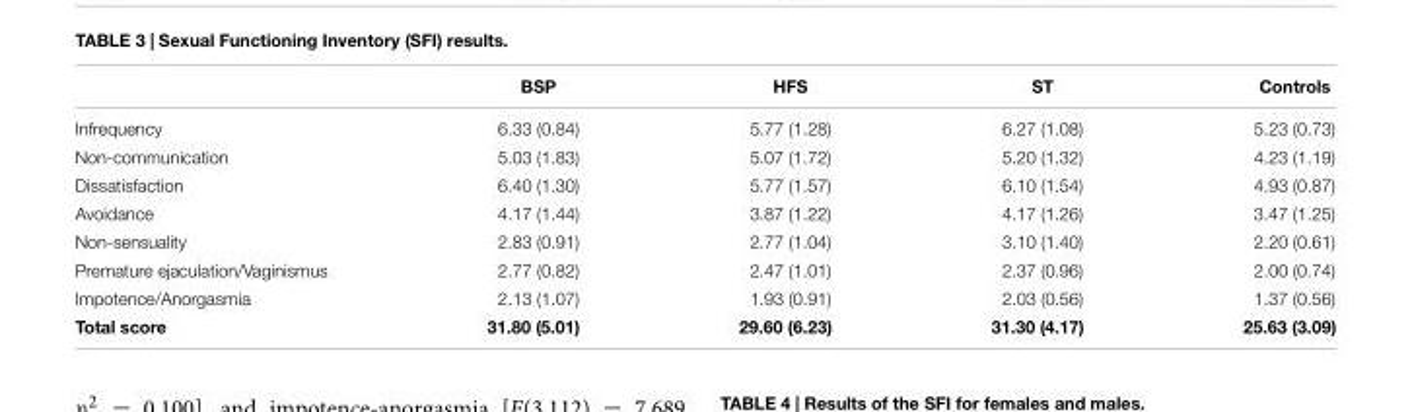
<table><thead><tr><td></td><td>BSP</td><td>HFS</td><td>ST</td><td>Controls</td></tr></thead><tbody><tr><td>Infrequency</td><td>6.33 (0.84)</td><td>5.77 (1.28)</td><td>6.27 (1.08)</td><td>5.23 (0.73)</td></tr><tr><td>Non-communication</td><td>5.03 (1.83)</td><td>5.07 (1.72)</td><td>5.20 (1.32)</td><td>4.23 (1.19)</td></tr><tr><td>Dissatisfaction</td><td>6.40 (1.30)</td><td>5.77 (1.57)</td><td>6.10 (1.54)</td><td>4.93 (0.87)</td></tr><tr><td>Avoidance</td><td>4.17 (1.44)</td><td>3.87 (1.22)</td><td>4.17 (1.26)</td><td>3.47 (1.25)</td></tr><tr><td>Non-sensuality</td><td>2.83 (0.91)</td><td>2.77 (1.04)</td><td>3.10 (1.40)</td><td>2.20 (0.61)</td></tr><tr><td>Premature ejaculation/Vaginismus</td><td>2.77 (0.82)</td><td>2.47 (1.01)</td><td>2.37 (0.96)</td><td>2.00 (0.74)</td></tr><tr><td>Impotence/Anorgasmia</td><td>2.13 (1.07)</td><td>1.93 (0.91)</td><td>2.03 (0.56)</td><td>1.37 (0.56)</td></tr><tr><td>Total score</td><td>31.80 (5.01)</td><td>29.60 (6.23)</td><td>31.30 (4.17)</td><td>25.63 (3.09)</td></tr></tbody></table>